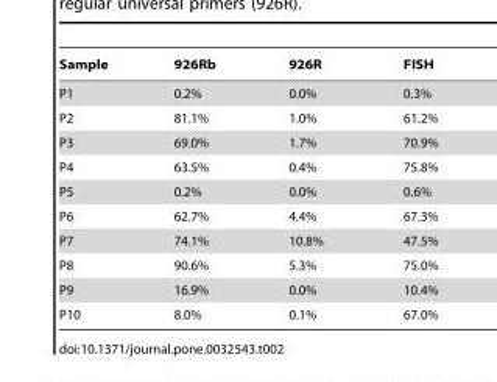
<table><thead><tr><td>Sample</td><td>926Rb</td><td>926R</td><td>FISH</td></tr></thead><tbody><tr><td>P1</td><td>0.2%</td><td>0.0%</td><td>0.3%</td></tr><tr><td>P2</td><td>81.1%</td><td>1.0%</td><td>61.2%</td></tr><tr><td>P3</td><td>69.0%</td><td>1.7%</td><td>70.9%</td></tr><tr><td>P4</td><td>63.5%</td><td>0.4%</td><td>75.8%</td></tr><tr><td>P5</td><td>0.2%</td><td>0.0%</td><td>0.6%</td></tr><tr><td>P6</td><td>62.7%</td><td>4.4%</td><td>67.3%</td></tr><tr><td>P7</td><td>74.1%</td><td>10.8%</td><td>47.5%</td></tr><tr><td>P8</td><td>90.6%</td><td>5.3%</td><td>75.0%</td></tr><tr><td>P9</td><td>16.9%</td><td>0.0%</td><td>10.4%</td></tr><tr><td>P10</td><td>8.0%</td><td>0.1%</td><td>67.0%</td></tr></tbody></table>